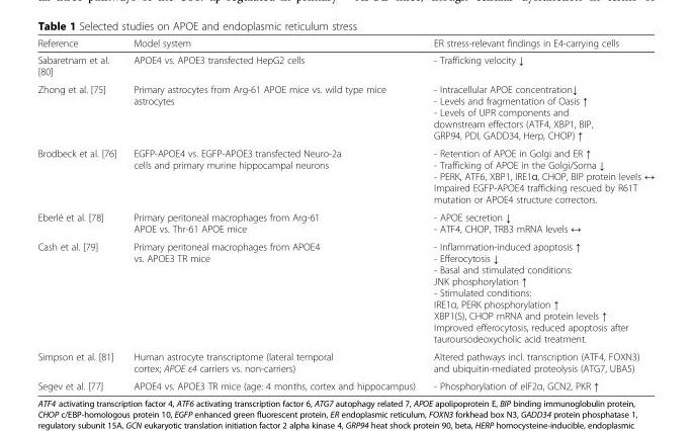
<table><thead><tr><td>Reference</td><td>Model system</td><td>ER stress-relevant findings in E4-carrying cells</td></tr></thead><tbody><tr><td>Sabaretnam et al. [80]</td><td>APOE4 vs. APOE3 transfected HepG2 cells</td><td>- Trafficking velocity ↓</td></tr><tr><td>Zhong et al. [75]</td><td>Primary astrocytes from Arg-61 APOE mice vs. wild type mice astrocytes</td><td>- Intracellular APOE concentration↓ - Levels and fragmentation of Oasis ↑ - Levels of UPR components and downstream effectors (ATF4, XBP1, BIP, GRP94, PDI, GADD34, Herp, CHOP) ↑</td></tr><tr><td>Brodbeck et al. [76]</td><td>EGFP-APOE4 vs. EGFP-APOE3 transfected Neuro-2a cells and primary murine hippocampal neurons</td><td>- Retention of APOE in Golgi and ER ↑ - Trafficking of APOE in the Golgi/Soma ↓ - PERK, ATF6, XBP1, IRE1ɑ, CHOP, BIP protein levels ↔ Impaired EGFP-APOE4 trafficking rescued by R61T mutation or APOE4 structure correctors.</td></tr><tr><td>Eberlé et al. [78]</td><td>Primary peritoneal macrophages from Arg-61 APOE vs. Thr-61 APOE mice</td><td>- APOE secretion ↓ - ATF4, CHOP, TRB3 mRNA levels ↔</td></tr><tr><td>Cash et al. [79]</td><td>Primary peritoneal macrophages from APOE4 vs. APOE3 TR mice</td><td>- Inflammation-induced apoptosis ↑ - Efferocytosis ↓ - Basal and stimulated conditions: JNK phosphorylation ↑ - Stimulated conditions: IRE1ɑ, PERK phosphorylation ↑ XBP1(S), CHOP mRNA and protein levels ↑ Improved efferocytosis, reduced apoptosis after tauroursodeoxycholic acid treatment.</td></tr><tr><td>Simpson et al. [81]</td><td>Human astrocyte transcriptome (lateral temporal cortex; APOE ε4 carriers vs. non-carriers)</td><td>Altered pathways incl. transcription (ATF4, FOXN3) and ubiquitin-mediated proteolysis (ATG7, UBA5)</td></tr><tr><td>Segev et al. [77]</td><td>APOE4 vs. APOE3 TR mice (age: 4 months, cortex and hippocampus)</td><td>- Phosphorylation of eIF2ɑ, GCN2, PKR ↑</td></tr></tbody></table>